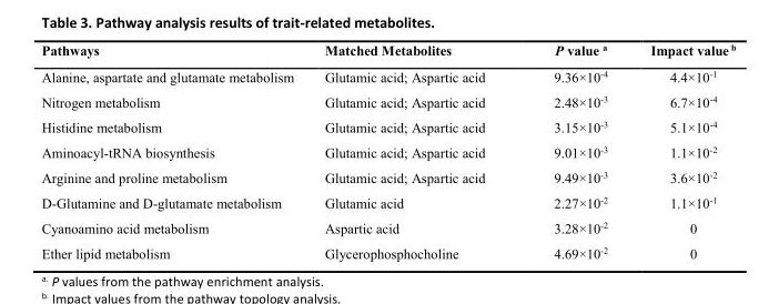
<table><tbody><tr><td>Pathways</td><td>Matched Metabolites</td><td>P value <sup>a</sup></td><td>Impact value <sup>b</sup></td></tr><tr><td>Alanine, aspartate and glutamate metabolism</td><td>Glutamic acid; Aspartic acid</td><td>9.36×10<sup>-4</sup></td><td>4.4×10<sup>-1</sup></td></tr><tr><td>Nitrogen metabolism</td><td>Glutamic acid; Aspartic acid</td><td>2.48×10<sup>-3</sup></td><td>6.7×10<sup>-4</sup></td></tr><tr><td>Histidine metabolism</td><td>Glutamic acid; Aspartic acid</td><td>3.15×10<sup>-3</sup></td><td>5.1×10<sup>-4</sup></td></tr><tr><td>Aminoacyl-tRNA biosynthesis</td><td>Glutamic acid; Aspartic acid</td><td>9.01×10<sup>-3</sup></td><td>1.1×10<sup>-2</sup></td></tr><tr><td>Arginine and proline metabolism</td><td>Glutamic acid; Aspartic acid</td><td>9.49×10<sup>-3</sup></td><td>3.6×10<sup>-2</sup></td></tr><tr><td>D-Glutamine and D-glutamate metabolism</td><td>Glutamic acid</td><td>2.27×10<sup>-2</sup></td><td>1.1×10<sup>-1</sup></td></tr><tr><td>Cyanoamino acid metabolism</td><td>Aspartic acid</td><td>3.28×10<sup>-2</sup></td><td>0</td></tr><tr><td>Ether lipid metabolism</td><td>Glycerophosphocholine</td><td>4.69×10<sup>-2</sup></td><td>0</td></tr></tbody></table>